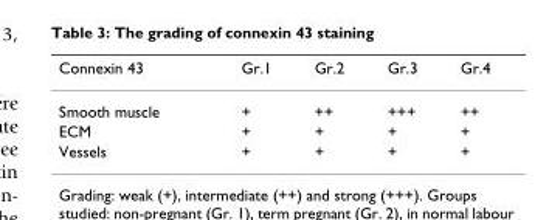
<table><thead><tr><td>Connexin 43</td><td>Gr.1</td><td>Gr.2</td><td>Gr.3</td><td>Gr.4</td></tr></thead><tbody><tr><td>Smooth muscle</td><td>+</td><td>++</td><td>+++</td><td>++</td></tr><tr><td>ECM</td><td>+</td><td>+</td><td>+</td><td>+</td></tr><tr><td>Vessels</td><td>+</td><td>+</td><td>+</td><td>+</td></tr></tbody></table>